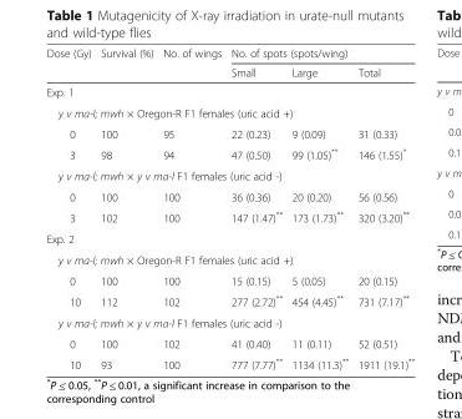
<table><thead><tr><td rowspan="2">Dose (Gy)</td><td rowspan="2">Survival (%)</td><td rowspan="2">No. of wings</td><td colspan="3">No. of spots (spots/wing)</td></tr><tr><td>Small</td><td>Large</td><td>Total</td></tr></thead><tbody><tr><td colspan="6">Exp. 1</td></tr><tr><td colspan="6">y v ma-l; mwh × Oregon-R F1 females (uric acid +)</td></tr><tr><td>0</td><td>100</td><td>95</td><td>22 (0.23)</td><td>9 (0.09)</td><td>31 (0.33)</td></tr><tr><td>3</td><td>98</td><td>94</td><td>47 (0.50)</td><td>99 (1.05)**</td><td>146 (1.55)*</td></tr><tr><td colspan="6">y v ma-l; mwh × y v ma-l F1 females (uric acid -)</td></tr><tr><td>0</td><td>100</td><td>100</td><td>36 (0.36)</td><td>20 (0.20)</td><td>56 (0.56)</td></tr><tr><td>3</td><td>102</td><td>100</td><td>147 (1.47)**</td><td>173 (1.73)**</td><td>320 (3.20)**</td></tr><tr><td colspan="6">Exp. 2</td></tr><tr><td colspan="6">y v ma-l; mwh × Oregon-R F1 females (uric acid +)</td></tr><tr><td>0</td><td>100</td><td>100</td><td>15 (0.15)</td><td>5 (0.05)</td><td>20 (0.15)</td></tr><tr><td>10</td><td>112</td><td>102</td><td>277 (2.72)**</td><td>454 (4.45)**</td><td>731 (7.17)**</td></tr><tr><td colspan="6">y v ma-l; mwh × y v ma-l F1 females (uric acid -)</td></tr><tr><td>0</td><td>100</td><td>102</td><td>41 (0.40)</td><td>11 (0.11)</td><td>52 (0.51)</td></tr><tr><td>10</td><td>93</td><td>100</td><td>777 (7.77)**</td><td>1134 (11.3)**</td><td>1911 (19.1)**</td></tr></tbody></table>